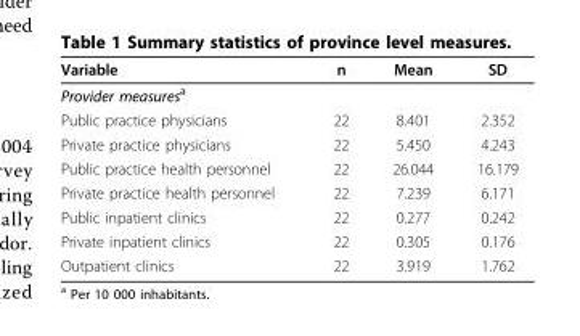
<table><thead><tr><td>Variable</td><td>n</td><td>Mean</td><td>SD</td></tr></thead><tbody><tr><td colspan="4">Provider measures<sup>a</sup></td></tr><tr><td>Public practice physicians</td><td>22</td><td>8.401</td><td>2.352</td></tr><tr><td>Private practice physicians</td><td>22</td><td>5.450</td><td>4.243</td></tr><tr><td>Public practice health personnel</td><td>22</td><td>26.044</td><td>16.179</td></tr><tr><td>Private practice health personnel</td><td>22</td><td>7.239</td><td>6.171</td></tr><tr><td>Public inpatient clinics</td><td>22</td><td>0.277</td><td>0.242</td></tr><tr><td>Private inpatient clinics</td><td>22</td><td>0.305</td><td>0.176</td></tr><tr><td>Outpatient clinics</td><td>22</td><td>3.919</td><td>1.762</td></tr></tbody></table>